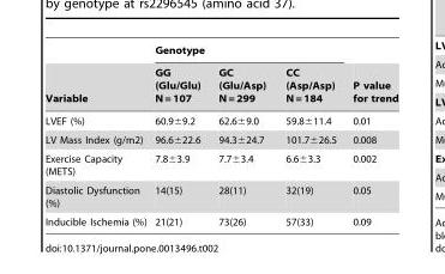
<table><thead><tr><td rowspan="2">Variable</td><td colspan="3">Genotype</td><td rowspan="2">P value for trend</td></tr><tr><td>GG (Glu/Glu) N = 107</td><td>GC (Glu/Asp) N = 299</td><td>CC (Asp/Asp) N = 184</td></tr></thead><tbody><tr><td>LVEF (%)</td><td>60.9±9.2</td><td>62.6±9.0</td><td>59.8±11.4</td><td>0.01</td></tr><tr><td>LV Mass Index (g/m2)</td><td>96.6±22.6</td><td>94.3±24.7</td><td>101.7±26.5</td><td>0.008</td></tr><tr><td>Exercise Capacity (METS)</td><td>7.8±3.9</td><td>7.7±3.4</td><td>6.6±3.3</td><td>0.002</td></tr><tr><td>Diastolic Dysfunction (%)</td><td>14(15)</td><td>28(11)</td><td>32(19)</td><td>0.05</td></tr><tr><td>Inducible Ischemia (%)</td><td>21(21)</td><td>73(26)</td><td>57(33)</td><td>0.09</td></tr></tbody></table>